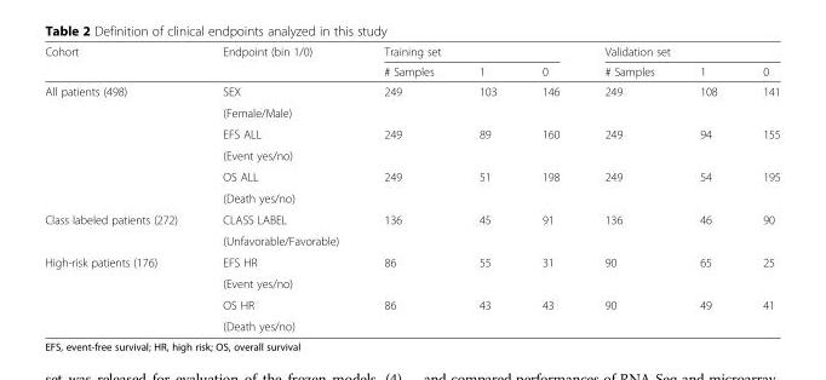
<table><thead><tr><td rowspan="2">Cohort</td><td rowspan="2">Endpoint (bin 1/0)</td><td colspan="3">Training set</td><td colspan="3">Validation set</td></tr><tr><td># Samples</td><td>1</td><td>0</td><td># Samples</td><td>1</td><td>0</td></tr></thead><tbody><tr><td rowspan="6">All patients (498)</td><td>SEX</td><td rowspan="2">249</td><td rowspan="2">103</td><td rowspan="2">146</td><td rowspan="2">249</td><td rowspan="2">108</td><td rowspan="2">141</td></tr><tr><td>(Female/Male)</td></tr><tr><td>EFS ALL</td><td rowspan="2">249</td><td rowspan="2">89</td><td rowspan="2">160</td><td rowspan="2">249</td><td rowspan="2">94</td><td rowspan="2">155</td></tr><tr><td>(Event yes/no)</td></tr><tr><td>OS ALL</td><td rowspan="2">249</td><td rowspan="2">51</td><td rowspan="2">198</td><td rowspan="2">249</td><td rowspan="2">54</td><td rowspan="2">195</td></tr><tr><td>(Death yes/no)</td></tr><tr><td rowspan="2">Class labeled patients (272)</td><td>CLASS LABEL</td><td rowspan="2">136</td><td rowspan="2">45</td><td rowspan="2">91</td><td rowspan="2">136</td><td rowspan="2">46</td><td rowspan="2">90</td></tr><tr><td>(Unfavorable/Favorable)</td></tr><tr><td rowspan="4">High-risk patients (176)</td><td>EFS HR</td><td rowspan="2">86</td><td rowspan="2">55</td><td rowspan="2">31</td><td rowspan="2">90</td><td rowspan="2">65</td><td rowspan="2">25</td></tr><tr><td>(Event yes/no)</td></tr><tr><td>OS HR</td><td rowspan="2">86</td><td rowspan="2">43</td><td rowspan="2">43</td><td rowspan="2">90</td><td rowspan="2">49</td><td rowspan="2">41</td></tr><tr><td>(Death yes/no)</td></tr></tbody></table>